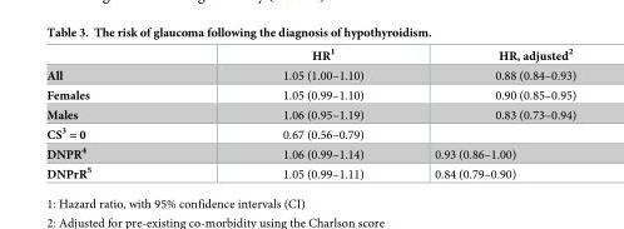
<table><thead><tr><td></td><td>HR<sup>1</sup></td><td>HR, adjusted<sup>2</sup></td></tr></thead><tbody><tr><td>All</td><td>1.05 (1.00–1.10)</td><td>0.88 (0.84–0.93)</td></tr><tr><td>Females</td><td>1.05 (0.99–1.10)</td><td>0.90 (0.85–0.95)</td></tr><tr><td>Males</td><td>1.06 (0.95–1.19)</td><td>0.83 (0.73–0.94)</td></tr><tr><td>CS<sup>3</sup> = 0</td><td>0.67 (0.56–0.79)</td><td></td></tr><tr><td>DNPR<sup>4</sup></td><td>1.06 (0.99–1.14)</td><td>0.93 (0.86–1.00)</td></tr><tr><td>DNPrR<sup>5</sup></td><td>1.05 (0.99–1.11)</td><td>0.84 (0.79–0.90)</td></tr></tbody></table>